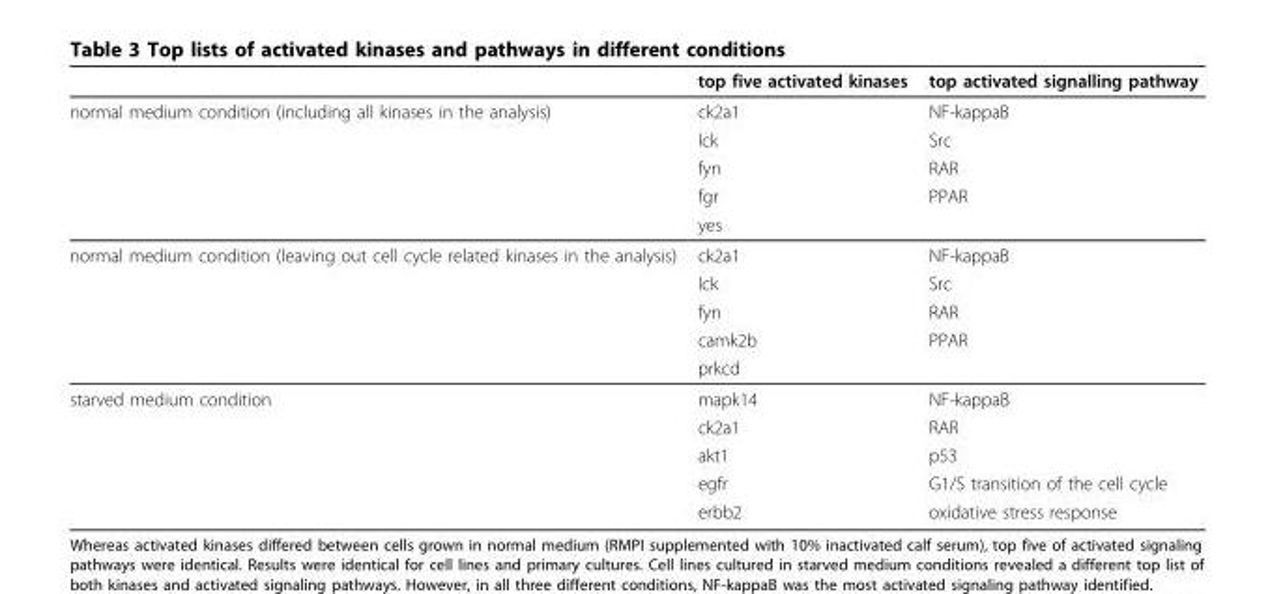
<table><thead><tr><td></td><td>top five activated kinases</td><td>top activated signalling pathway</td></tr></thead><tbody><tr><td rowspan="5">normal medium condition (including all kinases in the analysis)</td><td>ck2a1</td><td>NF-kappaB</td></tr><tr><td>lck</td><td>Src</td></tr><tr><td>fyn</td><td>RAR</td></tr><tr><td>fgr</td><td>PPAR</td></tr><tr><td>yes</td><td></td></tr><tr><td rowspan="5">normal medium condition (leaving out cell cycle related kinases in the analysis)</td><td>ck2a1</td><td>NF-kappaB</td></tr><tr><td>lck</td><td>Src</td></tr><tr><td>fyn</td><td>RAR</td></tr><tr><td>camk2b</td><td>PPAR</td></tr><tr><td>prkcd</td><td></td></tr><tr><td rowspan="5">starved medium condition</td><td>mapk14</td><td>NF-kappaB</td></tr><tr><td>ck2a1</td><td>RAR</td></tr><tr><td>akt1</td><td>p53</td></tr><tr><td>egfr</td><td>G1/S transition of the cell cycle</td></tr><tr><td>erbb2</td><td>oxidative stress response</td></tr></tbody></table>